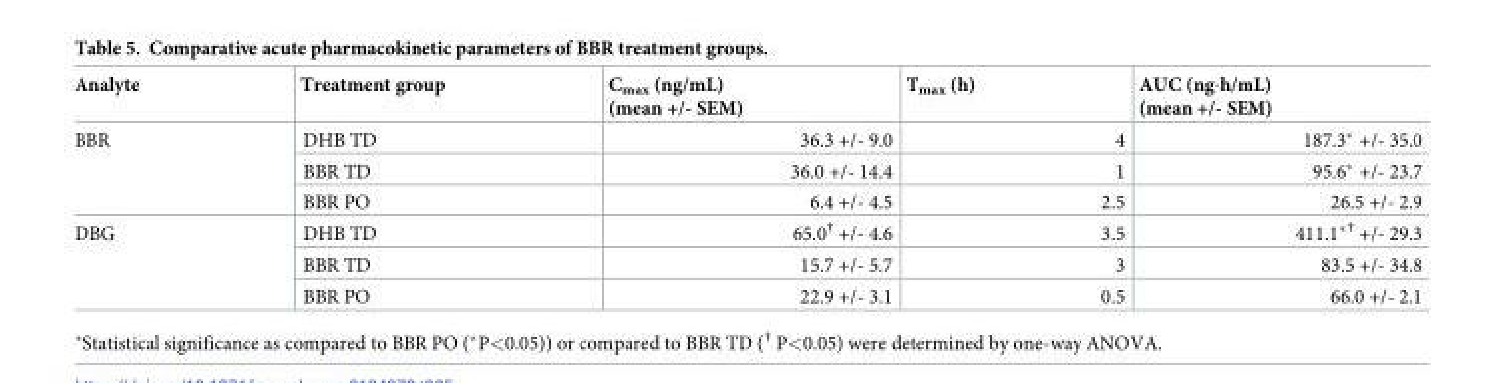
<table><thead><tr><td>Analyte</td><td>Treatment group</td><td>C<sub>max</sub> (ng/mL) (mean +/- SEM)</td><td>T<sub>max</sub> (h)</td><td>AUC (ng·h/mL) (mean +/- SEM)</td></tr></thead><tbody><tr><td rowspan="3">BBR</td><td>DHB TD</td><td>36.3 +/- 9.0</td><td>4</td><td>187.3* +/- 35.0</td></tr><tr><td>BBR TD</td><td>36.0 +/- 14.4</td><td>1</td><td>95.6* +/- 23.7</td></tr><tr><td>BBR PO</td><td>6.4 +/- 4.5</td><td>2.5</td><td>26.5 +/- 2.9</td></tr><tr><td rowspan="3">DBG</td><td>DHB TD</td><td>65.0<sup>†</sup> +/- 4.6</td><td>3.5</td><td>411.1*<sup>†</sup> +/- 29.3</td></tr><tr><td>BBR TD</td><td>15.7 +/- 5.7</td><td>3</td><td>83.5 +/- 34.8</td></tr><tr><td>BBR PO</td><td>22.9 +/- 3.1</td><td>0.5</td><td>66.0 +/- 2.1</td></tr></tbody></table>